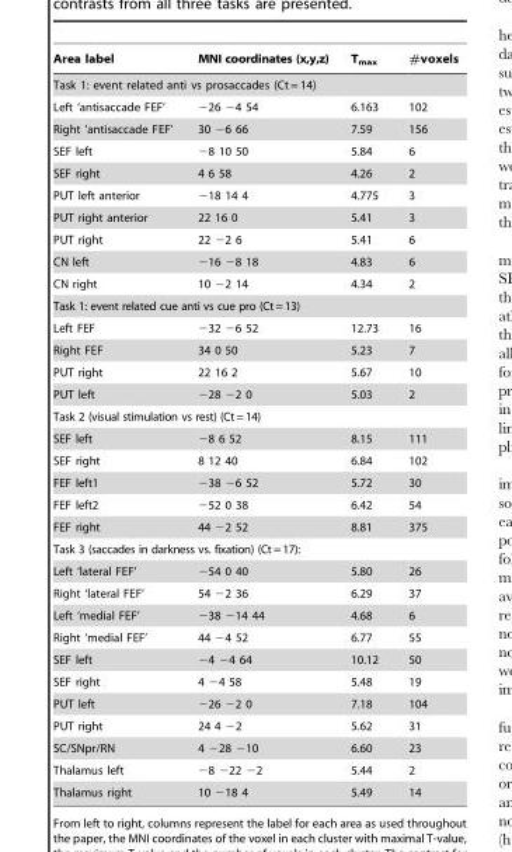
<table><thead><tr><td>Area label</td><td>MNI coordinates (x,y,z)</td><td>T<sub>max</sub></td><td>#voxels</td></tr></thead><tbody><tr><td colspan="4">Task 1: event related anti vs prosaccades (Ct = 14)</td></tr><tr><td>Left ‘antisaccade FEF’</td><td>−26 −4 54</td><td>6.163</td><td>102</td></tr><tr><td>Right ‘antisaccade FEF’</td><td>30 −6 66</td><td>7.59</td><td>156</td></tr><tr><td>SEF left</td><td>−8 10 50</td><td>5.84</td><td>6</td></tr><tr><td>SEF right</td><td>4 6 58</td><td>4.26</td><td>2</td></tr><tr><td>PUT left anterior</td><td>−18 14 4</td><td>4.775</td><td>3</td></tr><tr><td>PUT right anterior</td><td>22 16 0</td><td>5.41</td><td>3</td></tr><tr><td>PUT right</td><td>22 −2 6</td><td>5.41</td><td>6</td></tr><tr><td>CN left</td><td>−16 −8 18</td><td>4.83</td><td>6</td></tr><tr><td>CN right</td><td>10 −2 14</td><td>4.34</td><td>2</td></tr><tr><td colspan="4">Task 1: event related cue anti vs cue pro (Ct=13)</td></tr><tr><td>Left FEF</td><td>−32 −6 52</td><td>12.73</td><td>16</td></tr><tr><td>Right FEF</td><td>34 0 50</td><td>5.23</td><td>7</td></tr><tr><td>PUT right</td><td>22 16 2</td><td>5.67</td><td>10</td></tr><tr><td>PUT left</td><td>−28 −2 0</td><td>5.03</td><td>2</td></tr><tr><td colspan="4">Task 2 (visual stimulation vs rest) (Ct=14)</td></tr><tr><td>SEF left</td><td>−8 6 52</td><td>8.15</td><td>111</td></tr><tr><td>SEF right</td><td>8 12 40</td><td>6.84</td><td>102</td></tr><tr><td>FEF left1</td><td>−38 −6 52</td><td>5.72</td><td>30</td></tr><tr><td>FEF left2</td><td>−52 0 38</td><td>6.42</td><td>54</td></tr><tr><td>FEF right</td><td>44 −2 52</td><td>8.81</td><td>375</td></tr><tr><td colspan="4">Task 3 (saccades in darkness vs. fixation) (Ct=17):</td></tr><tr><td>Left ‘lateral FEF’</td><td>−54 0 40</td><td>5.80</td><td>26</td></tr><tr><td>Right ‘lateral FEF’</td><td>54 −2 36</td><td>6.29</td><td>37</td></tr><tr><td>Left ‘medial FEF’</td><td>−38 −14 44</td><td>4.68</td><td>6</td></tr><tr><td>Right ‘medial FEF’</td><td>44 −4 52</td><td>6.77</td><td>55</td></tr><tr><td>SEF left</td><td>−4 −4 64</td><td>10.12</td><td>50</td></tr><tr><td>SEF right</td><td>4 −4 58</td><td>5.48</td><td>19</td></tr><tr><td>PUT left</td><td>−26 −2 0</td><td>7.18</td><td>104</td></tr><tr><td>PUT right</td><td>24 4 −2</td><td>5.62</td><td>31</td></tr><tr><td>SC/SNpr/RN</td><td>4 −28 −10</td><td>6.60</td><td>23</td></tr><tr><td>Thalamus left</td><td>−8 −22 −2</td><td>5.44</td><td>2</td></tr><tr><td>Thalamus right</td><td>10 −18 4</td><td>5.49</td><td>14</td></tr></tbody></table>